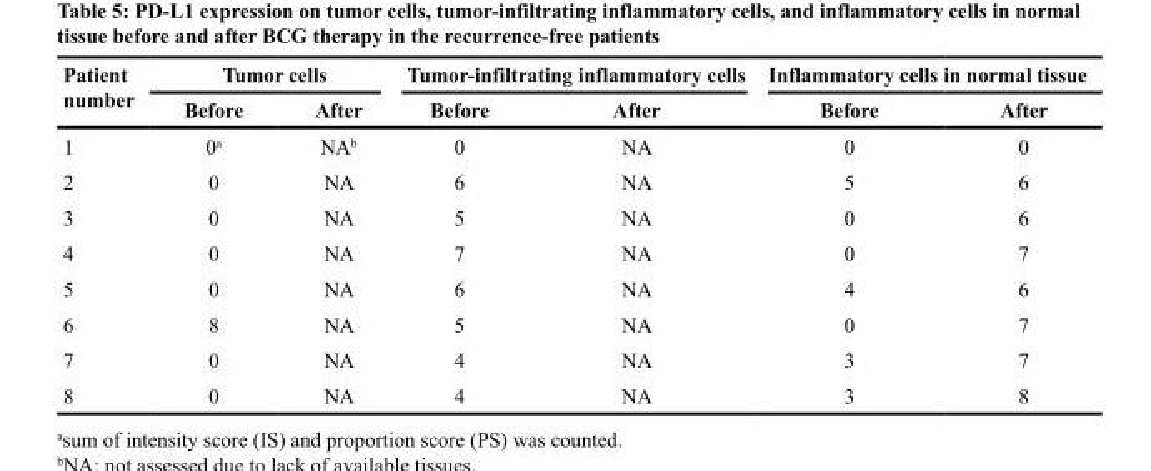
<table><thead><tr><td rowspan="2">Patient number</td><td colspan="2">Tumor cells</td><td colspan="2">Tumor-infiltrating inflammatory cells</td><td colspan="2">Inflammatory cells in normal tissue</td></tr><tr><td>Before</td><td>After</td><td>Before</td><td>After</td><td>Before</td><td>After</td></tr></thead><tbody><tr><td>1</td><td>0<sup>a</sup></td><td>NA<sup>b</sup></td><td>0</td><td>NA</td><td>0</td><td>0</td></tr><tr><td>2</td><td>0</td><td>NA</td><td>6</td><td>NA</td><td>5</td><td>6</td></tr><tr><td>3</td><td>0</td><td>NA</td><td>5</td><td>NA</td><td>0</td><td>6</td></tr><tr><td>4</td><td>0</td><td>NA</td><td>7</td><td>NA</td><td>0</td><td>7</td></tr><tr><td>5</td><td>0</td><td>NA</td><td>6</td><td>NA</td><td>4</td><td>6</td></tr><tr><td>6</td><td>8</td><td>NA</td><td>5</td><td>NA</td><td>0</td><td>7</td></tr><tr><td>7</td><td>0</td><td>NA</td><td>4</td><td>NA</td><td>3</td><td>7</td></tr><tr><td>8</td><td>0</td><td>NA</td><td>4</td><td>NA</td><td>3</td><td>8</td></tr></tbody></table>